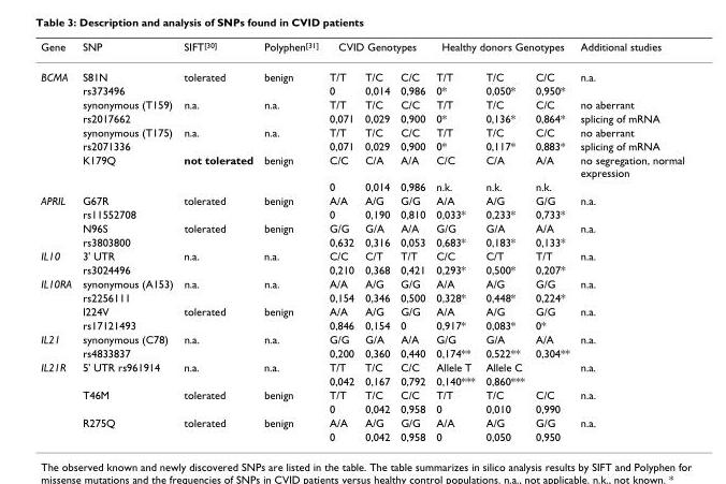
<table><thead><tr><td rowspan="2">Gene BCMA</td><td rowspan="2">SNP S81N</td><td rowspan="2">SIFT<sup>[30]</sup> tolerated</td><td rowspan="2">Polyphen<sup>[31]</sup> benign</td><td colspan="3">CVID Genotypes</td><td colspan="3">Healthy donors Genotypes</td><td rowspan="2">Additional studies n.a.</td></tr><tr><td>T/T</td><td>T/C</td><td>C/C</td><td>T/T</td><td>T/C</td><td>C/C</td></tr></thead><tbody><tr><td></td><td>rs373496</td><td></td><td></td><td>0</td><td>0,014</td><td>0,986</td><td>0*</td><td>0,050*</td><td>0,950*</td><td></td></tr><tr><td></td><td>synonymous (T159)</td><td>n.a.</td><td>n.a.</td><td>T/T</td><td>T/C</td><td>C/C</td><td>T/T</td><td>T/C</td><td>C/C</td><td>no aberrant</td></tr><tr><td></td><td>rs2017662</td><td></td><td></td><td>0,071</td><td>0,029</td><td>0,900</td><td>0*</td><td>0,136*</td><td>0,864*</td><td>splicing of mRNA</td></tr><tr><td></td><td>synonymous (T175)</td><td>n.a.</td><td>n.a.</td><td>T/T</td><td>T/C</td><td>C/C</td><td>T/T</td><td>T/C</td><td>C/C</td><td>no aberrant</td></tr><tr><td></td><td>rs2071336</td><td></td><td></td><td>0,071</td><td>0,029</td><td>0,900</td><td>0*</td><td>0,117*</td><td>0,883*</td><td>splicing of mRNA</td></tr><tr><td></td><td>K179Q</td><td>not tolerated</td><td>benign</td><td>C/C</td><td>C/A</td><td>A/A</td><td>C/C</td><td>C/A</td><td>A/A</td><td>no segregation, normal expression</td></tr><tr><td></td><td></td><td></td><td></td><td>0</td><td>0,014</td><td>0,986</td><td>n.k.</td><td>n.k.</td><td>n.k.</td><td></td></tr><tr><td rowspan="4">APRIL</td><td>G67R</td><td>tolerated</td><td>benign</td><td>A/A</td><td>A/G</td><td>G/G</td><td>A/A</td><td>A/G</td><td>G/G</td><td>n.a.</td></tr><tr><td>rs11552708</td><td></td><td></td><td>0</td><td>0,190</td><td>0,810</td><td>0,033*</td><td>0,233*</td><td>0,733*</td><td></td></tr><tr><td>N96S</td><td>tolerated</td><td>benign</td><td>G/G</td><td>G/A</td><td>A/A</td><td>G/G</td><td>G/A</td><td>A/A</td><td>n.a.</td></tr><tr><td>rs3803800</td><td></td><td></td><td>0,632</td><td>0,316</td><td>0,053</td><td>0,683*</td><td>0,183*</td><td>0,133*</td><td></td></tr><tr><td rowspan="2">IL10</td><td>3&#x27; UTR</td><td>n.a.</td><td>n.a.</td><td>C/C</td><td>C/T</td><td>T/T</td><td>C/C</td><td>C/T</td><td>T/T</td><td>n.a.</td></tr><tr><td>rs3024496</td><td></td><td></td><td>0,210</td><td>0,368</td><td>0,421</td><td>0,293*</td><td>0,500*</td><td>0,207*</td><td></td></tr><tr><td rowspan="4">IL10RA</td><td>synonymous (A153)</td><td>n.a.</td><td>n.a.</td><td>A/A</td><td>A/G</td><td>G/G</td><td>A/A</td><td>A/G</td><td>G/G</td><td>n.a.</td></tr><tr><td>rs2256111</td><td></td><td></td><td>0,154</td><td>0,346</td><td>0,500</td><td>0,328*</td><td>0,448*</td><td>0,224*</td><td></td></tr><tr><td>I224V</td><td>tolerated</td><td>benign</td><td>A/A</td><td>A/G</td><td>G/G</td><td>A/A</td><td>A/G</td><td>G/G</td><td>n.a.</td></tr><tr><td>rs17121493</td><td></td><td></td><td>0,846</td><td>0,154</td><td>0</td><td>0,917*</td><td>0,083*</td><td>0*</td><td></td></tr><tr><td rowspan="2">IL21</td><td>synonymous (C78)</td><td>n.a.</td><td>n.a.</td><td>G/G</td><td>G/A</td><td>A/A</td><td>G/G</td><td>G/A</td><td>A/A</td><td>n.a.</td></tr><tr><td>rs4833837</td><td></td><td></td><td>0,200</td><td>0,360</td><td>0,440</td><td>0,174**</td><td>0,522**</td><td>0,304**</td><td></td></tr><tr><td rowspan="6">IL21R</td><td>5&#x27; UTR rs961914</td><td>n.a.</td><td>n.a.</td><td>T/T</td><td>T/C</td><td>C/C</td><td>Allele T</td><td>Allele C</td><td></td><td>n.a.</td></tr><tr><td></td><td></td><td></td><td>0,042</td><td>0,167</td><td>0,792</td><td>0,140***</td><td>0,860***</td><td></td><td></td></tr><tr><td>T46M</td><td>tolerated</td><td>benign</td><td>T/T</td><td>T/C</td><td>C/C</td><td>T/T</td><td>T/C</td><td>C/C</td><td>n.a.</td></tr><tr><td></td><td></td><td></td><td>0</td><td>0,042</td><td>0,958</td><td>0</td><td>0,010</td><td>0,990</td><td></td></tr><tr><td>R275Q</td><td>tolerated</td><td>benign</td><td>A/A</td><td>A/G</td><td>G/G</td><td>A/A</td><td>A/G</td><td>G/G</td><td>n.a.</td></tr><tr><td></td><td></td><td></td><td>0</td><td>0,042</td><td>0,958</td><td>0</td><td>0,050</td><td>0,950</td><td></td></tr></tbody></table>